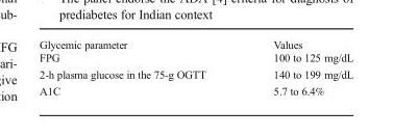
<table><thead><tr><td>Glycemic parameter</td><td>Values</td></tr></thead><tbody><tr><td>FPG</td><td>100 to 125 mg/dL</td></tr><tr><td>2-h plasma glucose in the 75-g OGTT</td><td>140 to 199 mg/dL</td></tr><tr><td>A1C</td><td>5.7 to 6.4%</td></tr></tbody></table>